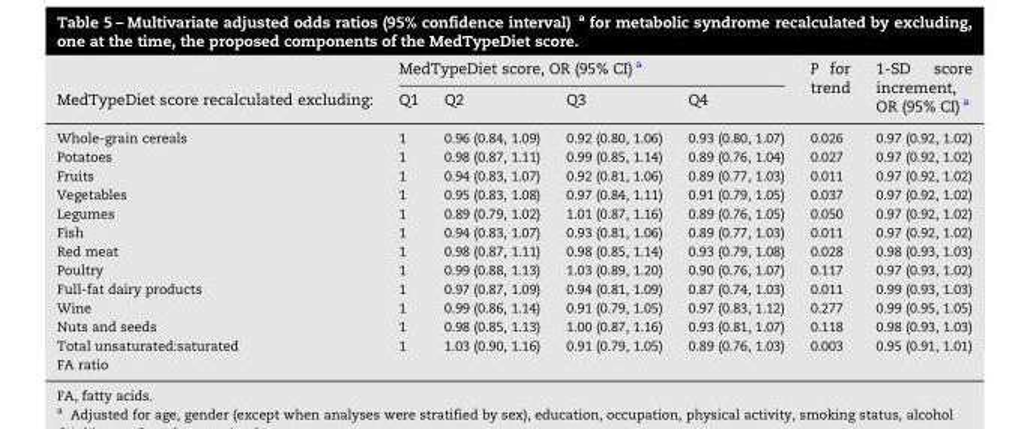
<table><thead><tr><td rowspan="2">MedTypeDiet score recalculated excluding:</td><td colspan="4">MedTypeDiet score, OR (95% CI) <sup>a</sup></td><td rowspan="2">P for trend</td><td rowspan="2">1-SD score increment, OR (95% CI) <sup>a</sup></td></tr><tr><td>Q1</td><td>Q2</td><td>Q3</td><td>Q4</td></tr></thead><tbody><tr><td>Whole-grain cereals</td><td>1</td><td>0.96 (0.84, 1.09)</td><td>0.92 (0.80, 1.06)</td><td>0.93 (0.80, 1.07)</td><td>0.026</td><td>0.97 (0.92, 1.02)</td></tr><tr><td>Potatoes</td><td>1</td><td>0.98 (0.87, 1.11)</td><td>0.99 (0.85, 1.14)</td><td>0.89 (0.76, 1.04)</td><td>0.027</td><td>0.97 (0.92, 1.02)</td></tr><tr><td>Fruits</td><td>1</td><td>0.94 (0.83, 1.07)</td><td>0.92 (0.81, 1.06)</td><td>0.89 (0.77, 1.03)</td><td>0.011</td><td>0.97 (0.92, 1.02)</td></tr><tr><td>Vegetables</td><td>1</td><td>0.95 (0.83, 1.08)</td><td>0.97 (0.84, 1.11)</td><td>0.91 (0.79, 1.05)</td><td>0.037</td><td>0.97 (0.92, 1.02)</td></tr><tr><td>Legumes</td><td>1</td><td>0.89 (0.79, 1.02)</td><td>1.01 (0.87, 1.16)</td><td>0.89 (0.76, 1.05)</td><td>0.050</td><td>0.97 (0.92, 1.02)</td></tr><tr><td>Fish</td><td>1</td><td>0.94 (0.83, 1.07)</td><td>0.93 (0.81, 1.06)</td><td>0.89 (0.77, 1.03)</td><td>0.011</td><td>0.97 (0.92, 1.02)</td></tr><tr><td>Red meat</td><td>1</td><td>0.98 (0.87, 1.11)</td><td>0.98 (0.85, 1.14)</td><td>0.93 (0.79, 1.08)</td><td>0.028</td><td>0.98 (0.93, 1.03)</td></tr><tr><td>Poultry</td><td>1</td><td>0.99 (0.88, 1.13)</td><td>1.03 (0.89, 1.20)</td><td>0.90 (0.76, 1.07)</td><td>0.117</td><td>0.97 (0.93, 1.02)</td></tr><tr><td>Full-fat dairy products</td><td>1</td><td>0.97 (0.87, 1.09)</td><td>0.94 (0.81, 1.09)</td><td>0.87 (0.74, 1.03)</td><td>0.011</td><td>0.99 (0.93, 1.03)</td></tr><tr><td>Wine</td><td>1</td><td>0.99 (0.86, 1.14)</td><td>0.91 (0.79, 1.05)</td><td>0.97 (0.83, 1.12)</td><td>0.277</td><td>0.99 (0.95, 1.05)</td></tr><tr><td>Nuts and seeds</td><td>1</td><td>0.98 (0.85, 1.13)</td><td>1.00 (0.87, 1.16)</td><td>0.93 (0.81, 1.07)</td><td>0.118</td><td>0.98 (0.93, 1.03)</td></tr><tr><td>Total unsaturated:saturated</td><td>1</td><td>1.03 (0.90, 1.16)</td><td>0.91 (0.79, 1.05)</td><td>0.89 (0.76, 1.03)</td><td>0.003</td><td>0.95 (0.91, 1.01)</td></tr><tr><td>FA ratio</td><td></td><td></td><td></td><td></td><td></td><td></td></tr></tbody></table>